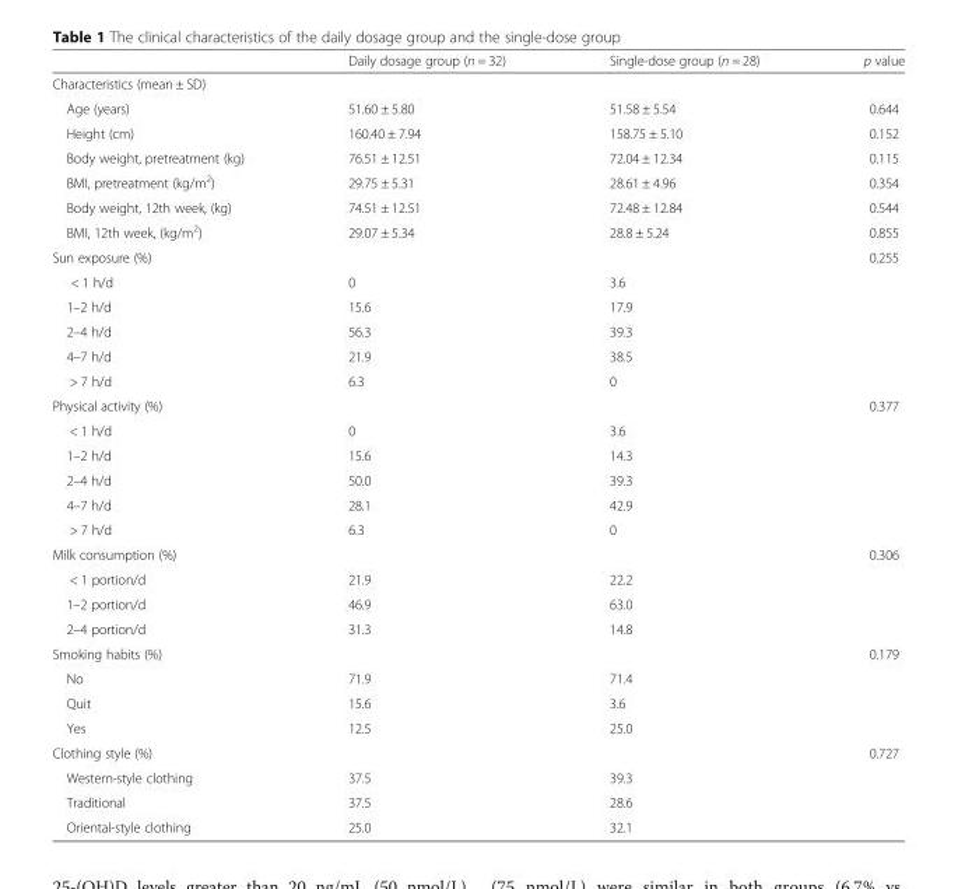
<table><thead><tr><td></td><td>Daily dosage group (n = 32)</td><td>Single-dose group (n = 28)</td><td>p value</td></tr></thead><tbody><tr><td colspan="4">Characteristics (mean ± SD)</td></tr><tr><td>Age (years)</td><td>51.60 ± 5.80</td><td>51.58 ± 5.54</td><td>0.644</td></tr><tr><td>Height (cm)</td><td>160.40 ± 7.94</td><td>158.75 ± 5.10</td><td>0.152</td></tr><tr><td>Body weight, pretreatment (kg)</td><td>76.51 ± 12.51</td><td>72.04 ± 12.34</td><td>0.115</td></tr><tr><td>BMI, pretreatment (kg/m<sup>2</sup>)</td><td>29.75 ± 5.31</td><td>28.61 ± 4.96</td><td>0.354</td></tr><tr><td>Body weight, 12th week, (kg)</td><td>74.51 ± 12.51</td><td>72.48 ± 12.84</td><td>0.544</td></tr><tr><td>BMI, 12th week, (kg/m<sup>2</sup>)</td><td>29.07 ± 5.34</td><td>28.8 ± 5.24</td><td>0.855</td></tr><tr><td>Sun exposure (%)</td><td></td><td></td><td>0.255</td></tr><tr><td>&lt; 1 h/d</td><td>0</td><td>3.6</td><td></td></tr><tr><td>1–2 h/d</td><td>15.6</td><td>17.9</td><td></td></tr><tr><td>2–4 h/d</td><td>56.3</td><td>39.3</td><td></td></tr><tr><td>4–7 h/d</td><td>21.9</td><td>38.5</td><td></td></tr><tr><td>&gt; 7 h/d</td><td>6.3</td><td>0</td><td></td></tr><tr><td>Physical activity (%)</td><td></td><td></td><td>0.377</td></tr><tr><td>&lt; 1 h/d</td><td>0</td><td>3.6</td><td></td></tr><tr><td>1–2 h/d</td><td>15.6</td><td>14.3</td><td></td></tr><tr><td>2–4 h/d</td><td>50.0</td><td>39.3</td><td></td></tr><tr><td>4–7 h/d</td><td>28.1</td><td>42.9</td><td></td></tr><tr><td>&gt; 7 h/d</td><td>6.3</td><td>0</td><td></td></tr><tr><td>Milk consumption (%)</td><td></td><td></td><td>0.306</td></tr><tr><td>&lt; 1 portion/d</td><td>21.9</td><td>22.2</td><td></td></tr><tr><td>1–2 portion/d</td><td>46.9</td><td>63.0</td><td></td></tr><tr><td>2–4 portion/d</td><td>31.3</td><td>14.8</td><td></td></tr><tr><td>Smoking habits (%)</td><td></td><td></td><td>0.179</td></tr><tr><td>No</td><td>71.9</td><td>71.4</td><td></td></tr><tr><td>Quit</td><td>15.6</td><td>3.6</td><td></td></tr><tr><td>Yes</td><td>12.5</td><td>25.0</td><td></td></tr><tr><td>Clothing style (%)</td><td></td><td></td><td>0.727</td></tr><tr><td>Western-style clothing</td><td>37.5</td><td>39.3</td><td></td></tr><tr><td>Traditional</td><td>37.5</td><td>28.6</td><td></td></tr><tr><td>Oriental-style clothing</td><td>25.0</td><td>32.1</td><td></td></tr></tbody></table>